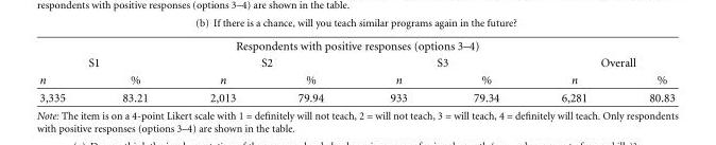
<table><thead><tr><td colspan="8">Respondents with positive responses (options 3–4)</td></tr><tr><td colspan="2">S1</td><td colspan="2">S2</td><td colspan="2">S3</td><td colspan="2">Overall</td></tr><tr><td>n</td><td>%</td><td>n</td><td>%</td><td>n</td><td>%</td><td>n</td><td>%</td></tr></thead><tbody><tr><td>3,335</td><td>83.21</td><td>2,013</td><td>79.94</td><td>933</td><td>79.34</td><td>6,281</td><td>80.83</td></tr></tbody></table>